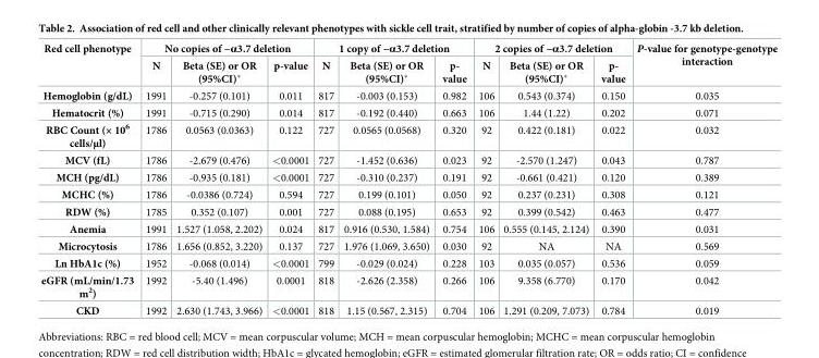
<table><thead><tr><td rowspan="2">Red cell phenotype</td><td colspan="3">No copies of −α3.7 deletion</td><td colspan="3">1 copy of −α3.7 deletion</td><td colspan="3">2 copies of −α3.7 deletion</td><td rowspan="2">P-value for genotype-genotype interaction</td></tr><tr><td>N</td><td>Beta (SE) or OR (95%CI)*</td><td>p-value</td><td>N</td><td>Beta (SE) or OR (95%CI)*</td><td>p- value</td><td>N</td><td>Beta (SE) or OR (95%CI)*</td><td>p- value</td></tr></thead><tbody><tr><td>Hemoglobin (g/dL)</td><td>1991</td><td>-0.257 (0.101)</td><td>0.011</td><td>817</td><td>-0.003 (0.153)</td><td>0.982</td><td>106</td><td>0.543 (0.374)</td><td>0.150</td><td>0.035</td></tr><tr><td>Hematocrit (%)</td><td>1991</td><td>-0.715 (0.290)</td><td>0.014</td><td>817</td><td>-0.192 (0.440)</td><td>0.663</td><td>106</td><td>1.44 (1.22)</td><td>0.202</td><td>0.071</td></tr><tr><td>RBC Count (× 10<sup>6</sup> cells/μl)</td><td>1786</td><td>0.0563 (0.0363)</td><td>0.122</td><td>727</td><td>0.0565 (0.0568)</td><td>0.320</td><td>92</td><td>0.422 (0.181)</td><td>0.022</td><td>0.032</td></tr><tr><td>MCV (fL)</td><td>1786</td><td>-2.679 (0.476)</td><td>&lt;0.0001</td><td>727</td><td>-1.452 (0.636)</td><td>0.023</td><td>92</td><td>-2.570 (1.247)</td><td>0.043</td><td>0.787</td></tr><tr><td>MCH (pg/dL)</td><td>1786</td><td>-0.935 (0.181)</td><td>&lt;0.0001</td><td>727</td><td>-0.310 (0.237)</td><td>0.191</td><td>92</td><td>-0.661 (0.421)</td><td>0.120</td><td>0.389</td></tr><tr><td>MCHC (%)</td><td>1786</td><td>-0.0386 (0.724)</td><td>0.594</td><td>727</td><td>0.199 (0.101)</td><td>0.050</td><td>92</td><td>0.237 (0.231)</td><td>0.308</td><td>0.121</td></tr><tr><td>RDW (%)</td><td>1785</td><td>0.352 (0.107)</td><td>0.001</td><td>727</td><td>0.088 (0.195)</td><td>0.653</td><td>92</td><td>0.399 (0.542)</td><td>0.463</td><td>0.477</td></tr><tr><td>Anemia</td><td>1991</td><td>1.527 (1.058, 2.202)</td><td>0.024</td><td>817</td><td>0.916 (0.530, 1.584)</td><td>0.754</td><td>106</td><td>0.555 (0.145, 2.124)</td><td>0.390</td><td>0.031</td></tr><tr><td>Microcytosis</td><td>1786</td><td>1.656 (0.852, 3.220)</td><td>0.137</td><td>727</td><td>1.976 (1.069, 3.650)</td><td>0.030</td><td>92</td><td>NA</td><td>NA</td><td>0.569</td></tr><tr><td>Ln HbA1c (%)</td><td>1952</td><td>-0.068 (0.014)</td><td>&lt;0.0001</td><td>799</td><td>-0.029 (0.024)</td><td>0.228</td><td>103</td><td>0.035 (0.057)</td><td>0.536</td><td>0.059</td></tr><tr><td>eGFR (mL/min/1.73 m<sup>2</sup>)</td><td>1992</td><td>-5.40 (1.496)</td><td>0.0001</td><td>818</td><td>-2.626 (2.358)</td><td>0.266</td><td>106</td><td>9.358 (6.770)</td><td>0.170</td><td>0.042</td></tr><tr><td>CKD</td><td>1992</td><td>2.630 (1.743, 3.966)</td><td>&lt;0.0001</td><td>818</td><td>1.15 (0.567, 2.315)</td><td>0.704</td><td>106</td><td>1.291 (0.209, 7.073)</td><td>0.784</td><td>0.019</td></tr></tbody></table>